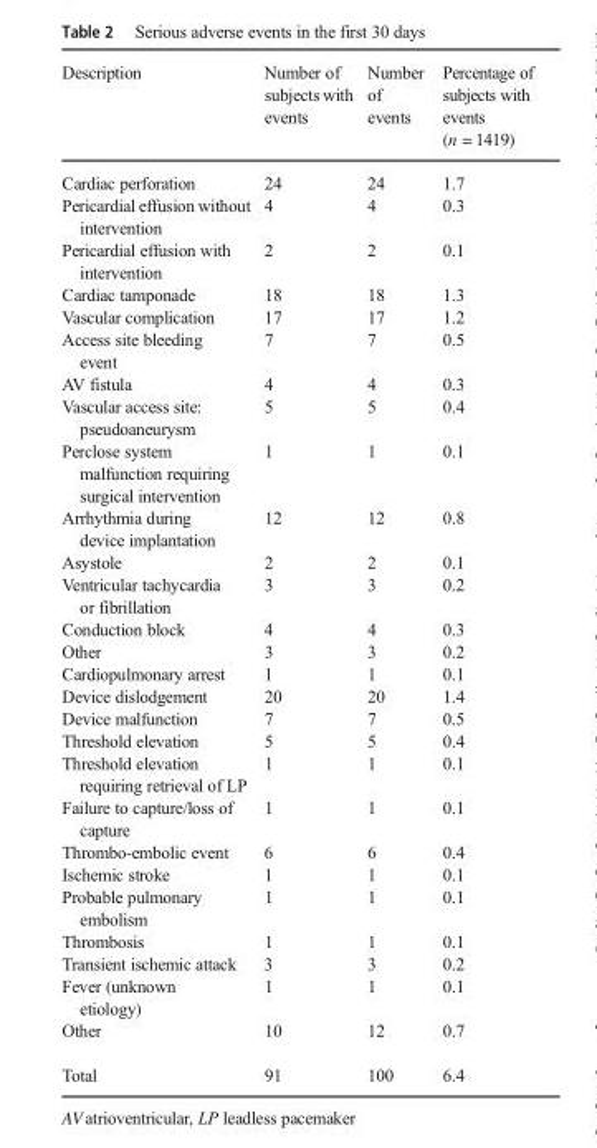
<table><thead><tr><td>Description</td><td>Number of subjects with events</td><td>Number of events</td><td>Percentage of subjects with events (n = 1419)</td></tr></thead><tbody><tr><td>Cardiac perforation</td><td>24</td><td>24</td><td>1.7</td></tr><tr><td>Pericardial effusion without intervention</td><td>4</td><td>4</td><td>0.3</td></tr><tr><td>Pericardial effusion with intervention</td><td>2</td><td>2</td><td>0.1</td></tr><tr><td>Cardiac tamponade</td><td>18</td><td>18</td><td>1.3</td></tr><tr><td>Vascular complication</td><td>17</td><td>17</td><td>1.2</td></tr><tr><td>Access site bleeding event</td><td>7</td><td>7</td><td>0.5</td></tr><tr><td>AV fistula</td><td>4</td><td>4</td><td>0.3</td></tr><tr><td>Vascular access site: pseudoaneurysm</td><td>5</td><td>5</td><td>0.4</td></tr><tr><td>Perclose system malfunction requiring surgical intervention</td><td>1</td><td>1</td><td>0.1</td></tr><tr><td>Arrhythmia during device implantation</td><td>12</td><td>12</td><td>0.8</td></tr><tr><td>Asystole</td><td>2</td><td>2</td><td>0.1</td></tr><tr><td>Ventricular tachycardia or fibrillation</td><td>3</td><td>3</td><td>0.2</td></tr><tr><td>Conduction block</td><td>4</td><td>4</td><td>0.3</td></tr><tr><td>Other</td><td>3</td><td>3</td><td>0.2</td></tr><tr><td>Cardiopulmonary arrest</td><td>1</td><td>1</td><td>0.1</td></tr><tr><td>Device dislodgement</td><td>20</td><td>20</td><td>1.4</td></tr><tr><td>Device malfunction</td><td>7</td><td>7</td><td>0.5</td></tr><tr><td>Threshold elevation</td><td>5</td><td>5</td><td>0.4</td></tr><tr><td>Threshold elevation requiring retrieval of LP</td><td>1</td><td>1</td><td>0.1</td></tr><tr><td>Failure to capture/loss of capture</td><td>1</td><td>1</td><td>0.1</td></tr><tr><td>Thrombo-embolic event</td><td>6</td><td>6</td><td>0.4</td></tr><tr><td>Ischemic stroke</td><td>1</td><td>1</td><td>0.1</td></tr><tr><td>Probable pulmonary embolism</td><td>1</td><td>1</td><td>0.1</td></tr><tr><td>Thrombosis</td><td>1</td><td>1</td><td>0.1</td></tr><tr><td>Transient ischemic attack</td><td>3</td><td>3</td><td>0.2</td></tr><tr><td>Fever (unknown etiology)</td><td>1</td><td>1</td><td>0.1</td></tr><tr><td>Other</td><td>10</td><td>12</td><td>0.7</td></tr><tr><td>Total</td><td>91</td><td>100</td><td>6.4</td></tr></tbody></table>